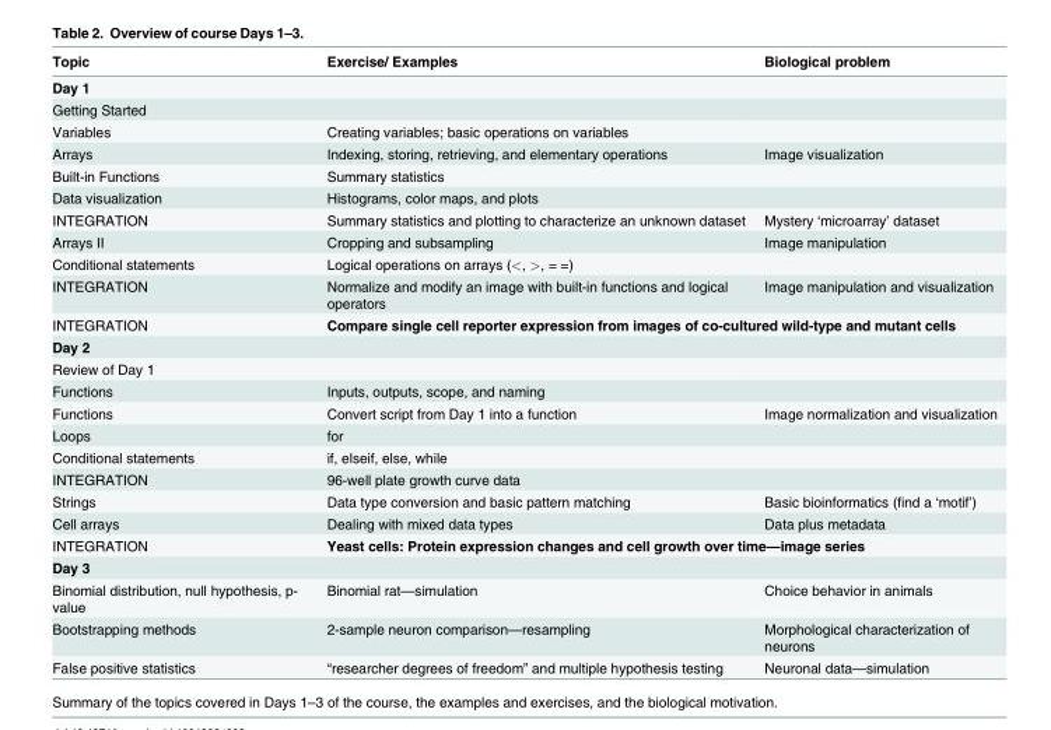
<table><thead><tr><td>Topic</td><td>Exercise/ Examples</td><td>Biological problem</td></tr></thead><tbody><tr><td colspan="3">Day 1</td></tr><tr><td colspan="3">Getting Started</td></tr><tr><td>Variables</td><td>Creating variables; basic operations on variables</td><td></td></tr><tr><td>Arrays</td><td>Indexing, storing, retrieving, and elementary operations</td><td>Image visualization</td></tr><tr><td>Built-in Functions</td><td>Summary statistics</td><td></td></tr><tr><td>Data visualization</td><td>Histograms, color maps, and plots</td><td></td></tr><tr><td>INTEGRATION</td><td>Summary statistics and plotting to characterize an unknown dataset</td><td>Mystery ‘microarray’ dataset</td></tr><tr><td>Arrays II</td><td>Cropping and subsampling</td><td>Image manipulation</td></tr><tr><td>Conditional statements</td><td>Logical operations on arrays (&lt;, &gt;, = =)</td><td></td></tr><tr><td>INTEGRATION</td><td>Normalize and modify an image with built-in functions and logical operators</td><td>Image manipulation and visualization</td></tr><tr><td>INTEGRATION</td><td colspan="2">Compare single cell reporter expression from images of co-cultured wild-type and mutant cells</td></tr><tr><td colspan="3">Day 2</td></tr><tr><td colspan="3">Review of Day 1</td></tr><tr><td>Functions</td><td>Inputs, outputs, scope, and naming</td><td></td></tr><tr><td>Functions</td><td>Convert script from Day 1 into a function</td><td>Image normalization and visualization</td></tr><tr><td>Loops</td><td>for</td><td></td></tr><tr><td>Conditional statements</td><td>if, elseif, else, while</td><td></td></tr><tr><td>INTEGRATION</td><td colspan="2">96-well plate growth curve data</td></tr><tr><td>Strings</td><td>Data type conversion and basic pattern matching</td><td>Basic bioinformatics (find a ‘motif’)</td></tr><tr><td>Cell arrays</td><td>Dealing with mixed data types</td><td>Data plus metadata</td></tr><tr><td>INTEGRATION</td><td colspan="2">Yeast cells: Protein expression changes and cell growth over time—image series</td></tr><tr><td colspan="3">Day 3</td></tr><tr><td>Binomial distribution, null hypothesis, p- value</td><td>Binomial rat—simulation</td><td>Choice behavior in animals</td></tr><tr><td>Bootstrapping methods</td><td>2-sample neuron comparison—resampling</td><td>Morphological characterization of neurons</td></tr><tr><td>False positive statistics</td><td>“researcher degrees of freedom” and multiple hypothesis testing</td><td>Neuronal data—simulation</td></tr></tbody></table>